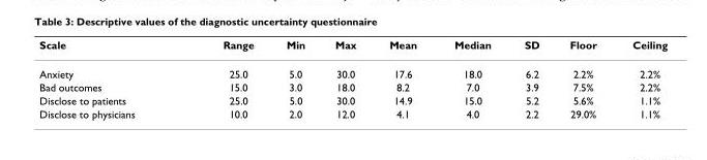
<table><thead><tr><td>Scale</td><td>Range</td><td>Min</td><td>Max</td><td>Mean</td><td>Median</td><td>SD</td><td>Floor</td><td>Ceiling</td></tr></thead><tbody><tr><td>Anxiety</td><td>25.0</td><td>5.0</td><td>30.0</td><td>17.6</td><td>18.0</td><td>6.2</td><td>2.2%</td><td>2.2%</td></tr><tr><td>Bad outcomes</td><td>15.0</td><td>3.0</td><td>18.0</td><td>8.2</td><td>7.0</td><td>3.9</td><td>7.5%</td><td>2.2%</td></tr><tr><td>Disclose to patients</td><td>25.0</td><td>5.0</td><td>30.0</td><td>14.9</td><td>15.0</td><td>5.2</td><td>5.6%</td><td>1.1%</td></tr><tr><td>Disclose to physicians</td><td>10.0</td><td>2.0</td><td>12.0</td><td>4.1</td><td>4.0</td><td>2.2</td><td>29.0%</td><td>1.1%</td></tr></tbody></table>